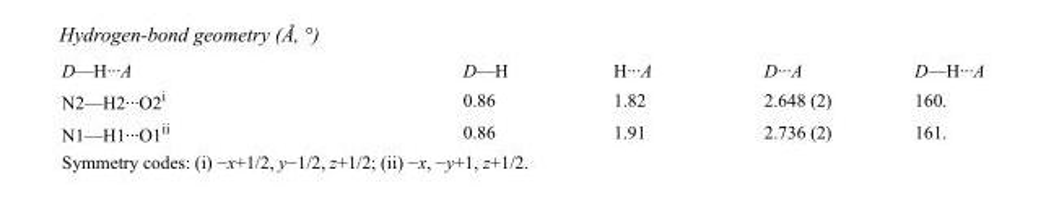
<table><tbody><tr><td>D—H···A</td><td>D—H</td><td>H···A</td><td>D···A</td><td>D—H···A</td></tr><tr><td>N2—H2···O2<sup>i</sup></td><td>0.86</td><td>1.82</td><td>2.648 (2)</td><td>160.</td></tr><tr><td>N1—H1···O1<sup>ii</sup></td><td>0.86</td><td>1.91</td><td>2.736 (2)</td><td>161.</td></tr></tbody></table>